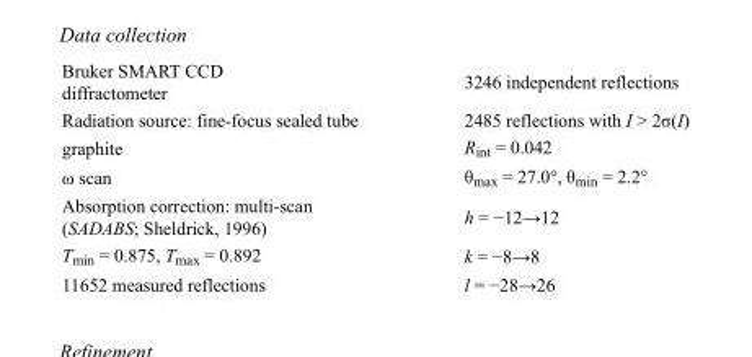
<table><tbody><tr><td>Bruker SMART CCD diffractometer</td><td>3246 independent reflections</td></tr><tr><td>Radiation source: fine-focus sealed tube</td><td>2485 reflections with I &gt; 2σ(I)</td></tr><tr><td>graphite</td><td>R<sub>int</sub> = 0.042</td></tr><tr><td>ω scan</td><td>θ<sub>max</sub> = 27.0°, θ<sub>min</sub> = 2.2°</td></tr><tr><td>Absorption correction: multi-scan (SADABS; Sheldrick, 1996)</td><td>h = −12→12</td></tr><tr><td>T<sub>min</sub> = 0.875, T<sub>max</sub> = 0.892</td><td>k = −8→8</td></tr><tr><td>11652 measured reflections</td><td>l = −28→26</td></tr></tbody></table>